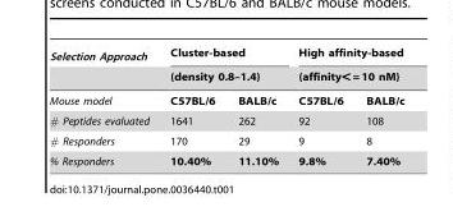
<table><thead><tr><td rowspan="3">Selection Approach Mouse model</td><td rowspan="2" colspan="2">Cluster-based (density 0.8–1.4)</td><td rowspan="2" colspan="2">High affinity-based (affinity&lt; = 10 nM)</td></tr><tr></tr><tr><td>C57BL/6</td><td>BALB/c</td><td>C57BL/6</td><td>BALB/c</td></tr></thead><tbody><tr><td># Peptides evaluated</td><td>1641</td><td>262</td><td>92</td><td>108</td></tr><tr><td># Responders</td><td>170</td><td>29</td><td>9</td><td>8</td></tr><tr><td>% Responders</td><td>10.40%</td><td>11.10%</td><td>9.8%</td><td>7.40%</td></tr></tbody></table>